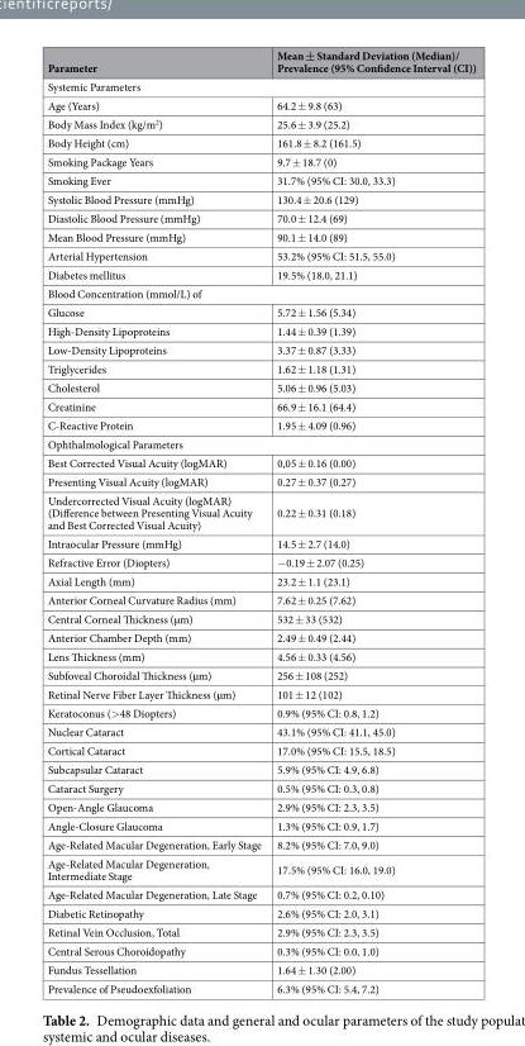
<table><thead><tr><td>Parameter</td><td>Mean ± Standard Deviation (Median)/ Prevalence (95% Confidence Interval (CI))</td></tr></thead><tbody><tr><td colspan="2">Systemic Parameters</td></tr><tr><td>Age (Years)</td><td>64.2 ± 9.8 (63)</td></tr><tr><td>Body Mass Index (kg/m<sup>2</sup>)</td><td>25.6 ± 3.9 (25.2)</td></tr><tr><td>Body Height (cm)</td><td>161.8 ± 8.2 (161.5)</td></tr><tr><td>Smoking Package Years</td><td>9.7 ± 18.7 (0)</td></tr><tr><td>Smoking Ever</td><td>31.7% (95% CI: 30.0, 33.3)</td></tr><tr><td>Systolic Blood Pressure (mmHg)</td><td>130.4 ± 20.6 (129)</td></tr><tr><td>Diastolic Blood Pressure (mmHg)</td><td>70.0 ± 12.4 (69)</td></tr><tr><td>Mean Blood Pressure (mmHg)</td><td>90.1 ± 14.0 (89)</td></tr><tr><td>Arterial Hypertension</td><td>53.2% (95% CI: 51.5, 55.0)</td></tr><tr><td>Diabetes mellitus</td><td>19.5% (18.0, 21.1)</td></tr><tr><td colspan="2">Blood Concentration (mmol/L) of</td></tr><tr><td>Glucose</td><td>5.72 ± 1.56 (5.34)</td></tr><tr><td>High-Density Lipoproteins</td><td>1.44 ± 0.39 (1.39)</td></tr><tr><td>Low-Density Lipoproteins</td><td>3.37 ± 0.87 (3.33)</td></tr><tr><td>Triglycerides</td><td>1.62 ± 1.18 (1.31)</td></tr><tr><td>Cholesterol</td><td>5.06 ± 0.96 (5.03)</td></tr><tr><td>Creatinine</td><td>66.9 ± 16.1 (64.4)</td></tr><tr><td>C-Reactive Protein</td><td>1.95 ± 4.09 (0.96)</td></tr><tr><td colspan="2">Ophthalmological Parameters</td></tr><tr><td>Best Corrected Visual Acuity (logMAR)</td><td>0,05 ± 0.16 (0.00)</td></tr><tr><td>Presenting Visual Acuity (logMAR)</td><td>0.27 ± 0.37 (0.27)</td></tr><tr><td>Undercorrected Visual Acuity (logMAR) (Difference between Presenting Visual Acuity and Best Corrected Visual Acuity)</td><td>0.22 ± 0.31 (0.18)</td></tr><tr><td>Intraocular Pressure (mmHg)</td><td>14.5 ± 2.7 (14.0)</td></tr><tr><td>Refractive Error (Diopters)</td><td>−0.19 ± 2.07 (0.25)</td></tr><tr><td>Axial Length (mm)</td><td>23.2 ± 1.1 (23.1)</td></tr><tr><td>Anterior Corneal Curvature Radius (mm)</td><td>7.62 ± 0.25 (7.62)</td></tr><tr><td>Central Corneal Thickness (µm)</td><td>532 ± 33 (532)</td></tr><tr><td>Anterior Chamber Depth (mm)</td><td>2.49 ± 0.49 (2.44)</td></tr><tr><td>Lens Thickness (mm)</td><td>4.56 ± 0.33 (4.56)</td></tr><tr><td>Subfoveal Choroidal Thickness (µm)</td><td>256 ± 108 (252)</td></tr><tr><td>Retinal Nerve Fiber Layer Thickness (µm)</td><td>101 ± 12 (102)</td></tr><tr><td>Keratoconus (&gt;48 Diopters)</td><td>0.9% (95% CI: 0.8, 1.2)</td></tr><tr><td>Nuclear Cataract</td><td>43.1% (95% CI: 41.1, 45.0)</td></tr><tr><td>Cortical Cataract</td><td>17.0% (95% CI: 15.5, 18.5)</td></tr><tr><td>Subcapsular Cataract</td><td>5.9% (95% CI: 4.9, 6.8)</td></tr><tr><td>Cataract Surgery</td><td>0.5% (95% CI: 0.3, 0.8)</td></tr><tr><td>Open-Angle Glaucoma</td><td>2.9% (95% CI: 2.3, 3.5)</td></tr><tr><td>Angle-Closure Glaucoma</td><td>1.3% (95% CI: 0.9, 1.7)</td></tr><tr><td>Age-Related Macular Degeneration, Early Stage</td><td>8.2% (95% CI: 7.0, 9.0)</td></tr><tr><td>Age-Related Macular Degeneration, Intermediate Stage</td><td>17.5% (95% CI: 16.0, 19.0)</td></tr><tr><td>Age-Related Macular Degeneration, Late Stage</td><td>0.7% (95% CI: 0.2, 0.10)</td></tr><tr><td>Diabetic Retinopathy</td><td>2.6% (95% CI: 2.0, 3.1)</td></tr><tr><td>Retinal Vein Occlusion, Total</td><td>2.9% (95% CI: 2.3, 3.5)</td></tr><tr><td>Central Serous Choroidopathy</td><td>0.3% (95% CI: 0.0, 1.0)</td></tr><tr><td>Fundus Tessellation</td><td>1.64 ± 1.30 (2.00)</td></tr><tr><td>Prevalence of Pseudoexfoliation</td><td>6.3% (95% CI: 5.4, 7.2)</td></tr></tbody></table>